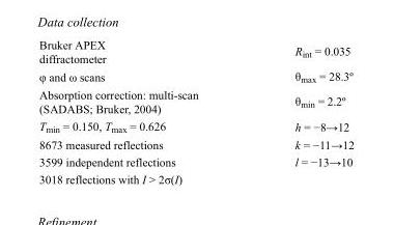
<table><tbody><tr><td>Bruker APEX diffractometer</td><td>R<sub>int</sub> = 0.035</td></tr><tr><td>φ and ω scans</td><td>θ<sub>max</sub> = 28.3º</td></tr><tr><td>Absorption correction: multi-scan (SADABS; Bruker, 2004)</td><td>θ<sub>min</sub> = 2.2º</td></tr><tr><td>T<sub>min</sub> = 0.150, T<sub>max</sub> = 0.626</td><td>h = −8→12</td></tr><tr><td>8673 measured reflections</td><td>k = −11→12</td></tr><tr><td>3599 independent reflections</td><td>l = −13→10</td></tr><tr><td>3018 reflections with I &gt; 2σ(I)</td><td></td></tr></tbody></table>